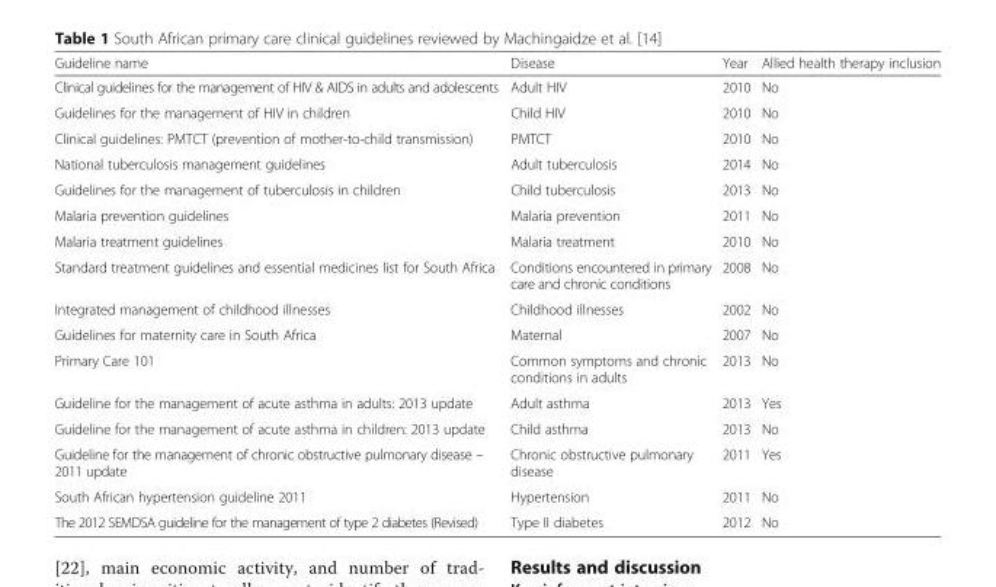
<table><thead><tr><td>Guideline name</td><td>Disease</td><td>Year</td><td>Allied health therapy inclusion</td></tr></thead><tbody><tr><td>Clinical guidelines for the management of HIV &amp; AIDS in adults and adolescents</td><td>Adult HIV</td><td>2010</td><td>No</td></tr><tr><td>Guidelines for the management of HIV in children</td><td>Child HIV</td><td>2010</td><td>No</td></tr><tr><td>Clinical guidelines: PMTCT (prevention of mother-to-child transmission)</td><td>PMTCT</td><td>2010</td><td>No</td></tr><tr><td>National tuberculosis management guidelines</td><td>Adult tuberculosis</td><td>2014</td><td>No</td></tr><tr><td>Guidelines for the management of tuberculosis in children</td><td>Child tuberculosis</td><td>2013</td><td>No</td></tr><tr><td>Malaria prevention guidelines</td><td>Malaria prevention</td><td>2011</td><td>No</td></tr><tr><td>Malaria treatment guidelines</td><td>Malaria treatment</td><td>2010</td><td>No</td></tr><tr><td>Standard treatment guidelines and essential medicines list for South Africa</td><td>Conditions encountered in primary care and chronic conditions</td><td>2008</td><td>No</td></tr><tr><td>Integrated management of childhood illnesses</td><td>Childhood illnesses</td><td>2002</td><td>No</td></tr><tr><td>Guidelines for maternity care in South Africa</td><td>Maternal</td><td>2007</td><td>No</td></tr><tr><td>Primary Care 101</td><td>Common symptoms and chronic conditions in adults</td><td>2013</td><td>No</td></tr><tr><td>Guideline for the management of acute asthma in adults: 2013 update</td><td>Adult asthma</td><td>2013</td><td>Yes</td></tr><tr><td>Guideline for the management of acute asthma in children: 2013 update</td><td>Child asthma</td><td>2013</td><td>No</td></tr><tr><td>Guideline for the management of chronic obstructive pulmonary disease – 2011 update</td><td>Chronic obstructive pulmonary disease</td><td>2011</td><td>Yes</td></tr><tr><td>South African hypertension guideline 2011</td><td>Hypertension</td><td>2011</td><td>No</td></tr><tr><td>The 2012 SEMDSA guideline for the management of type 2 diabetes (Revised)</td><td>Type II diabetes</td><td>2012</td><td>No</td></tr></tbody></table>